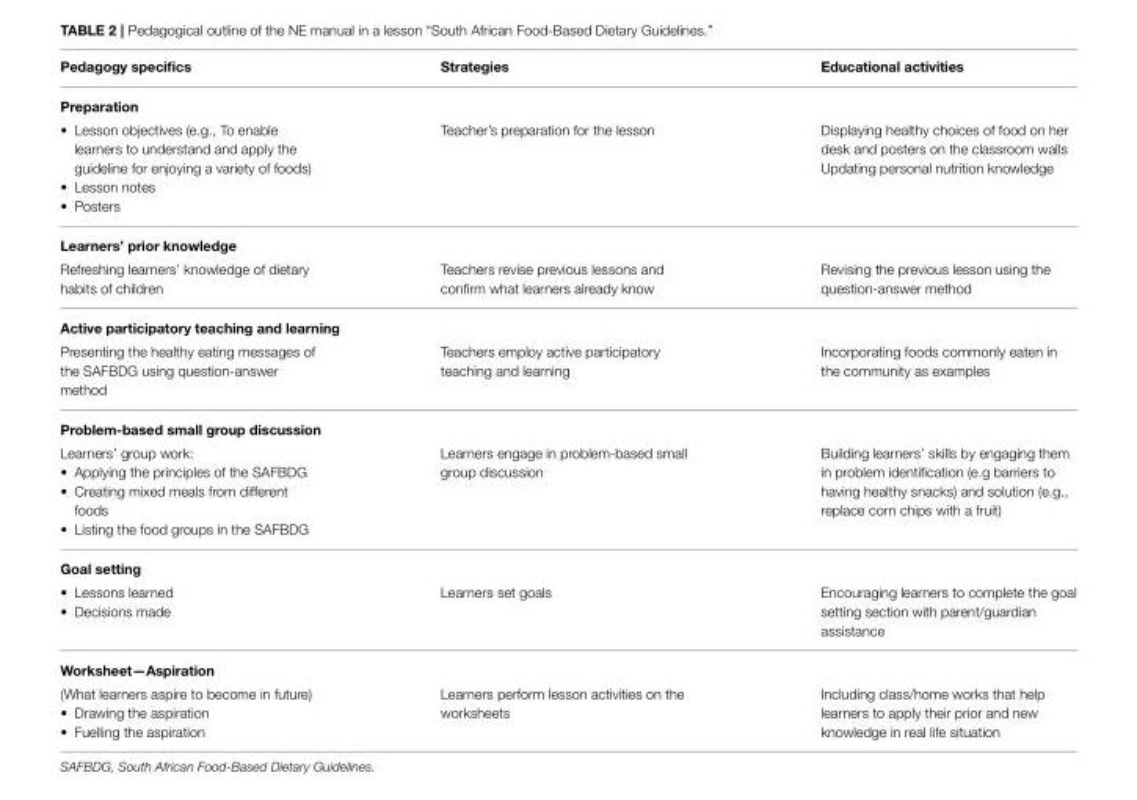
<table><thead><tr><td>Pedagogy specifics</td><td>Strategies</td><td>Educational activities</td></tr></thead><tbody><tr><td colspan="3">Preparation</td></tr><tr><td>• Lesson objectives (e.g., To enable learners to understand and apply the guideline for enjoying a variety of foods) • Lesson notes • Posters</td><td>Teacher’s preparation for the lesson</td><td>Displaying healthy choices of food on her desk and posters on the classroom walls Updating personal nutrition knowledge</td></tr><tr><td colspan="3">Learners’ prior knowledge</td></tr><tr><td>Refreshing learners’ knowledge of dietary habits of children</td><td>Teachers revise previous lessons and confirm what learners already know</td><td>Revising the previous lesson using the question-answer method</td></tr><tr><td colspan="3">Active participatory teaching and learning</td></tr><tr><td>Presenting the healthy eating messages of the SAFBDG using question-answer method</td><td>Teachers employ active participatory teaching and learning</td><td>Incorporating foods commonly eaten in the community as examples</td></tr><tr><td colspan="3">Problem-based small group discussion</td></tr><tr><td>Learners’ group work: • Applying the principles of the SAFBDG • Creating mixed meals from different foods • Listing the food groups in the SAFBDG</td><td>Learners engage in problem-based small group discussion</td><td>Building learners’ skills by engaging them in problem identification (e.g barriers to having healthy snacks) and solution (e.g., replace corn chips with a fruit)</td></tr><tr><td colspan="3">Goal setting</td></tr><tr><td>• Lessons learned • Decisions made</td><td>Learners set goals</td><td>Encouraging learners to complete the goal setting section with parent/guardian assistance</td></tr><tr><td colspan="3">Worksheet—Aspiration</td></tr><tr><td>(What learners aspire to become in future) • Drawing the aspiration • Fuelling the aspiration</td><td>Learners perform lesson activities on the worksheets</td><td>Including class/home works that help learners to apply their prior and new knowledge in real life situation</td></tr></tbody></table>